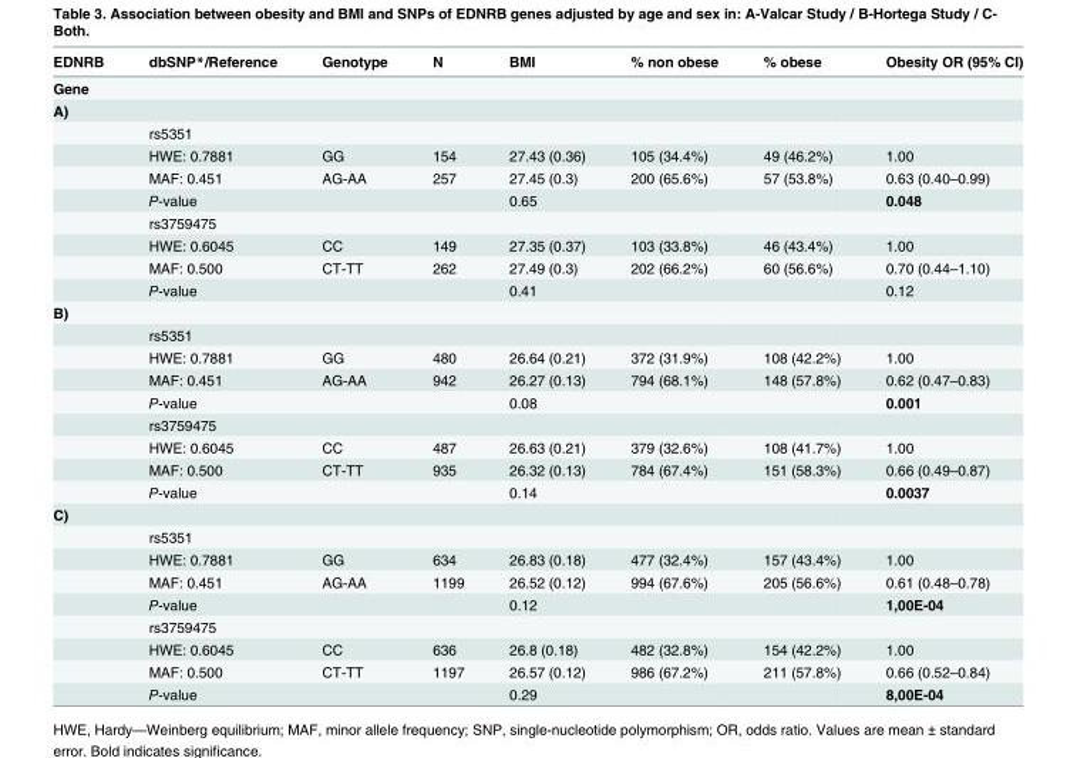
<table><thead><tr><td>EDNRB</td><td>dbSNP*/Reference</td><td>Genotype</td><td>N</td><td>BMI</td><td>% non obese</td><td>% obese</td><td>Obesity OR (95% CI)</td></tr></thead><tbody><tr><td colspan="8">Gene</td></tr><tr><td colspan="8">A)</td></tr><tr><td></td><td>rs5351</td><td></td><td></td><td></td><td></td><td></td><td></td></tr><tr><td></td><td>HWE: 0.7881</td><td>GG</td><td>154</td><td>27.43 (0.36)</td><td>105 (34.4%)</td><td>49 (46.2%)</td><td>1.00</td></tr><tr><td></td><td>MAF: 0.451</td><td>AG-AA</td><td>257</td><td>27.45 (0.3)</td><td>200 (65.6%)</td><td>57 (53.8%)</td><td>0.63 (0.40–0.99)</td></tr><tr><td></td><td>P-value</td><td></td><td></td><td>0.65</td><td></td><td></td><td>0.048</td></tr><tr><td></td><td>rs3759475</td><td></td><td></td><td></td><td></td><td></td><td></td></tr><tr><td></td><td>HWE: 0.6045</td><td>CC</td><td>149</td><td>27.35 (0.37)</td><td>103 (33.8%)</td><td>46 (43.4%)</td><td>1.00</td></tr><tr><td></td><td>MAF: 0.500</td><td>CT-TT</td><td>262</td><td>27.49 (0.3)</td><td>202 (66.2%)</td><td>60 (56.6%)</td><td>0.70 (0.44–1.10)</td></tr><tr><td></td><td>P-value</td><td></td><td></td><td>0.41</td><td></td><td></td><td>0.12</td></tr><tr><td colspan="8">B)</td></tr><tr><td></td><td>rs5351</td><td></td><td></td><td></td><td></td><td></td><td></td></tr><tr><td></td><td>HWE: 0.7881</td><td>GG</td><td>480</td><td>26.64 (0.21)</td><td>372 (31.9%)</td><td>108 (42.2%)</td><td>1.00</td></tr><tr><td></td><td>MAF: 0.451</td><td>AG-AA</td><td>942</td><td>26.27 (0.13)</td><td>794 (68.1%)</td><td>148 (57.8%)</td><td>0.62 (0.47–0.83)</td></tr><tr><td></td><td>P-value</td><td></td><td></td><td>0.08</td><td></td><td></td><td>0.001</td></tr><tr><td></td><td>rs3759475</td><td></td><td></td><td></td><td></td><td></td><td></td></tr><tr><td></td><td>HWE: 0.6045</td><td>CC</td><td>487</td><td>26.63 (0.21)</td><td>379 (32.6%)</td><td>108 (41.7%)</td><td>1.00</td></tr><tr><td></td><td>MAF: 0.500</td><td>CT-TT</td><td>935</td><td>26.32 (0.13)</td><td>784 (67.4%)</td><td>151 (58.3%)</td><td>0.66 (0.49–0.87)</td></tr><tr><td></td><td>P-value</td><td></td><td></td><td>0.14</td><td></td><td></td><td>0.0037</td></tr><tr><td colspan="8">C)</td></tr><tr><td></td><td>rs5351</td><td></td><td></td><td></td><td></td><td></td><td></td></tr><tr><td></td><td>HWE: 0.7881</td><td>GG</td><td>634</td><td>26.83 (0.18)</td><td>477 (32.4%)</td><td>157 (43.4%)</td><td>1.00</td></tr><tr><td></td><td>MAF: 0.451</td><td>AG-AA</td><td>1199</td><td>26.52 (0.12)</td><td>994 (67.6%)</td><td>205 (56.6%)</td><td>0.61 (0.48–0.78)</td></tr><tr><td></td><td>P-value</td><td></td><td></td><td>0.12</td><td></td><td></td><td>1,00E-04</td></tr><tr><td></td><td>rs3759475</td><td></td><td></td><td></td><td></td><td></td><td></td></tr><tr><td></td><td>HWE: 0.6045</td><td>CC</td><td>636</td><td>26.8 (0.18)</td><td>482 (32.8%)</td><td>154 (42.2%)</td><td>1.00</td></tr><tr><td></td><td>MAF: 0.500</td><td>CT-TT</td><td>1197</td><td>26.57 (0.12)</td><td>986 (67.2%)</td><td>211 (57.8%)</td><td>0.66 (0.52–0.84)</td></tr><tr><td></td><td>P-value</td><td></td><td></td><td>0.29</td><td></td><td></td><td>8,00E-04</td></tr></tbody></table>